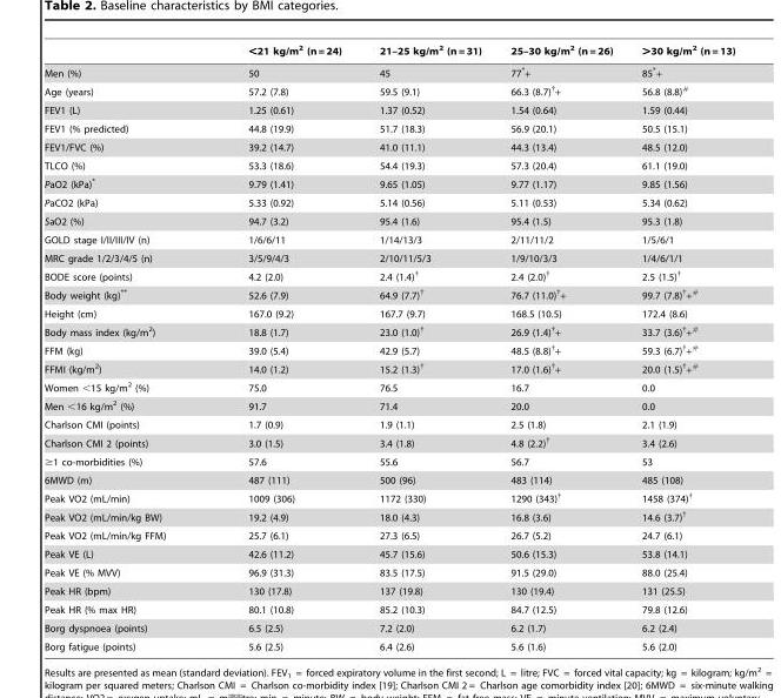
<table><thead><tr><td></td><td>&lt;21 kg/m<sup>2</sup> (n = 24)</td><td>21–25 kg/m<sup>2</sup> (n = 31)</td><td>25–30 kg/m<sup>2</sup> (n = 26)</td><td>&gt;30 kg/m<sup>2</sup> (n = 13)</td></tr></thead><tbody><tr><td>Men (%)</td><td>50</td><td>45</td><td>77*+</td><td>85*+</td></tr><tr><td>Age (years)</td><td>57.2 (7.8)</td><td>59.5 (9.1)</td><td>66.3 (8.7)<sup>†</sup>+</td><td>56.8 (8.8)<sup>#</sup></td></tr><tr><td>FEV1 (L)</td><td>1.25 (0.61)</td><td>1.37 (0.52)</td><td>1.54 (0.64)</td><td>1.59 (0.44)</td></tr><tr><td>FEV1 (% predicted)</td><td>44.8 (19.9)</td><td>51.7 (18.3)</td><td>56.9 (20.1)</td><td>50.5 (15.1)</td></tr><tr><td>FEV1/FVC (%)</td><td>39.2 (14.7)</td><td>41.0 (11.1)</td><td>44.3 (13.4)</td><td>48.5 (12.0)</td></tr><tr><td>TLCO (%)</td><td>53.3 (18.6)</td><td>54.4 (19.3)</td><td>57.3 (20.4)</td><td>61.1 (19.0)</td></tr><tr><td>PaO2 (kPa)*</td><td>9.79 (1.41)</td><td>9.65 (1.05)</td><td>9.77 (1.17)</td><td>9.85 (1.56)</td></tr><tr><td>PaCO2 (kPa)</td><td>5.33 (0.92)</td><td>5.14 (0.56)</td><td>5.11 (0.53)</td><td>5.34 (0.62)</td></tr><tr><td>SaO2 (%)</td><td>94.7 (3.2)</td><td>95.4 (1.6)</td><td>95.4 (1.5)</td><td>95.3 (1.8)</td></tr><tr><td>GOLD stage I/II/III/IV (n)</td><td>1/6/6/11</td><td>1/14/13/3</td><td>2/11/11/2</td><td>1/5/6/1</td></tr><tr><td>MRC grade 1/2/3/4/5 (n)</td><td>3/5/9/4/3</td><td>2/10/11/5/3</td><td>1/9/10/3/3</td><td>1/4/6/1/1</td></tr><tr><td>BODE score (points)</td><td>4.2 (2.0)</td><td>2.4 (1.4)<sup>†</sup></td><td>2.4 (2.0)<sup>†</sup></td><td>2.5 (1.5)<sup>†</sup></td></tr><tr><td>Body weight (kg)**</td><td>52.6 (7.9)</td><td>64.9 (7.7)<sup>†</sup></td><td>76.7 (11.0)<sup>†</sup>+</td><td>99.7 (7.8)<sup>†</sup>+<sup>#</sup></td></tr><tr><td>Height (cm)</td><td>167.0 (9.2)</td><td>167.7 (9.7)</td><td>168.5 (10.5)</td><td>172.4 (8.6)</td></tr><tr><td>Body mass index (kg/m<sup>2</sup>)</td><td>18.8 (1.7)</td><td>23.0 (1.0)<sup>†</sup></td><td>26.9 (1.4)<sup>†</sup>+</td><td>33.7 (3.6)<sup>†</sup>+<sup>#</sup></td></tr><tr><td>FFM (kg)</td><td>39.0 (5.4)</td><td>42.9 (5.7)</td><td>48.5 (8.8)<sup>†</sup>+</td><td>59.3 (6.7)<sup>†</sup>+<sup>#</sup></td></tr><tr><td>FFMI (kg/m<sup>2</sup>)</td><td>14.0 (1.2)</td><td>15.2 (1.3)<sup>†</sup></td><td>17.0 (1.6)<sup>†</sup>+</td><td>20.0 (1.5)<sup>†</sup>+<sup>#</sup></td></tr><tr><td>Women &lt;15 kg/m<sup>2</sup> (%)</td><td>75.0</td><td>76.5</td><td>16.7</td><td>0.0</td></tr><tr><td>Men &lt;16 kg/m<sup>2</sup> (%)</td><td>91.7</td><td>71.4</td><td>20.0</td><td>0.0</td></tr><tr><td>Charlson CMI (points)</td><td>1.7 (0.9)</td><td>1.9 (1.1)</td><td>2.5 (1.8)</td><td>2.1 (1.9)</td></tr><tr><td>Charlson CMI 2 (points)</td><td>3.0 (1.5)</td><td>3.4 (1.8)</td><td>4.8 (2.2)<sup>†</sup></td><td>3.4 (2.6)</td></tr><tr><td>≥1 co-morbidities (%)</td><td>57.6</td><td>55.6</td><td>56.7</td><td>53</td></tr><tr><td>6MWD (m)</td><td>487 (111)</td><td>500 (96)</td><td>483 (114)</td><td>485 (108)</td></tr><tr><td>Peak VO2 (mL/min)</td><td>1009 (306)</td><td>1172 (330)</td><td>1290 (343)<sup>†</sup></td><td>1458 (374)<sup>†</sup></td></tr><tr><td>Peak VO2 (mL/min/kg BW)</td><td>19.2 (4.9)</td><td>18.0 (4.3)</td><td>16.8 (3.6)</td><td>14.6 (3.7)<sup>†</sup></td></tr><tr><td>Peak VO2 (mL/min/kg FFM)</td><td>25.7 (6.1)</td><td>27.3 (6.5)</td><td>26.7 (5.2)</td><td>24.7 (6.1)</td></tr><tr><td>Peak VE (L)</td><td>42.6 (11.2)</td><td>45.7 (15.6)</td><td>50.6 (15.3)</td><td>53.8 (14.1)</td></tr><tr><td>Peak VE (% MVV)</td><td>96.9 (31.3)</td><td>83.5 (17.5)</td><td>91.5 (29.0)</td><td>88.0 (25.4)</td></tr><tr><td>Peak HR (bpm)</td><td>130 (17.8)</td><td>137 (19.8)</td><td>130 (19.4)</td><td>131 (25.5)</td></tr><tr><td>Peak HR (% max HR)</td><td>80.1 (10.8)</td><td>85.2 (10.3)</td><td>84.7 (12.5)</td><td>79.8 (12.6)</td></tr><tr><td>Borg dyspnoea (points)</td><td>6.5 (2.5)</td><td>7.2 (2.0)</td><td>6.2 (1.7)</td><td>6.2 (2.4)</td></tr><tr><td>Borg fatigue (points)</td><td>5.6 (2.5)</td><td>6.4 (2.6)</td><td>5.6 (1.6)</td><td>5.6 (2.0)</td></tr></tbody></table>